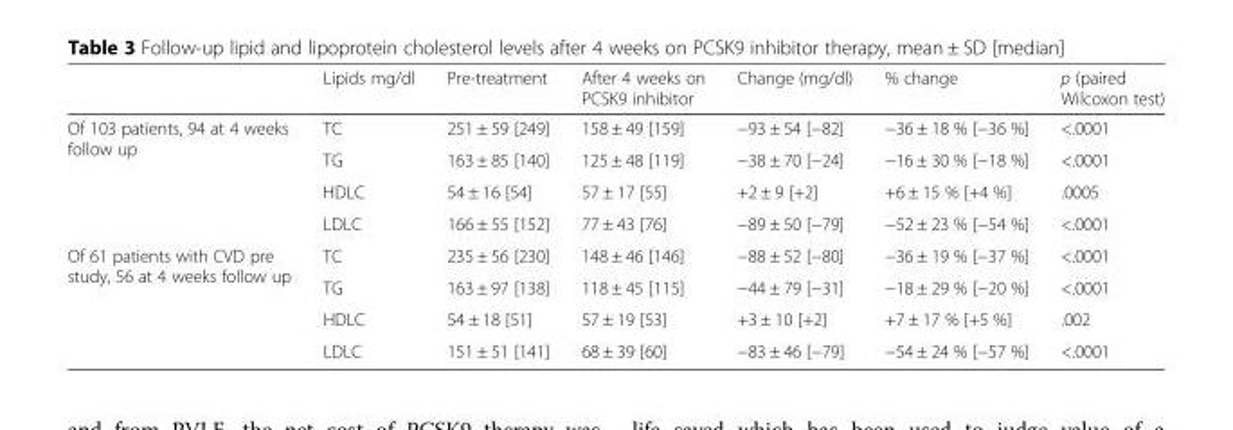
<table><thead><tr><td></td><td>Lipids mg/dl</td><td>Pre-treatment</td><td>After 4 weeks on PCSK9 inhibitor</td><td>Change (mg/dl)</td><td>% change</td><td>p (paired Wilcoxon test)</td></tr></thead><tbody><tr><td rowspan="4">Of 103 patients, 94 at 4 weeks follow up</td><td>TC</td><td>251 ± 59 [249]</td><td>158 ± 49 [159]</td><td>−93 ± 54 [−82]</td><td>−36 ± 18 % [−36 %]</td><td>&lt;.0001</td></tr><tr><td>TG</td><td>163 ± 85 [140]</td><td>125 ± 48 [119]</td><td>−38 ± 70 [−24]</td><td>−16 ± 30 % [−18 %]</td><td>&lt;.0001</td></tr><tr><td>HDLC</td><td>54 ± 16 [54]</td><td>57 ± 17 [55]</td><td>+2 ± 9 [+2]</td><td>+6 ± 15 % [+4 %]</td><td>.0005</td></tr><tr><td>LDLC</td><td>166 ± 55 [152]</td><td>77 ± 43 [76]</td><td>−89 ± 50 [−79]</td><td>−52 ± 23 % [−54 %]</td><td>&lt;.0001</td></tr><tr><td rowspan="4">Of 61 patients with CVD pre study, 56 at 4 weeks follow up</td><td>TC</td><td>235 ± 56 [230]</td><td>148 ± 46 [146]</td><td>−88 ± 52 [−80]</td><td>−36 ± 19 % [−37 %]</td><td>&lt;.0001</td></tr><tr><td>TG</td><td>163 ± 97 [138]</td><td>118 ± 45 [115]</td><td>−44 ± 79 [−31]</td><td>−18 ± 29 % [−20 %]</td><td>&lt;.0001</td></tr><tr><td>HDLC</td><td>54 ± 18 [51]</td><td>57 ± 19 [53]</td><td>+3 ± 10 [+2]</td><td>+7 ± 17 % [+5 %]</td><td>.002</td></tr><tr><td>LDLC</td><td>151 ± 51 [141]</td><td>68 ± 39 [60]</td><td>−83 ± 46 [−79]</td><td>−54 ± 24 % [−57 %]</td><td>&lt;.0001</td></tr></tbody></table>